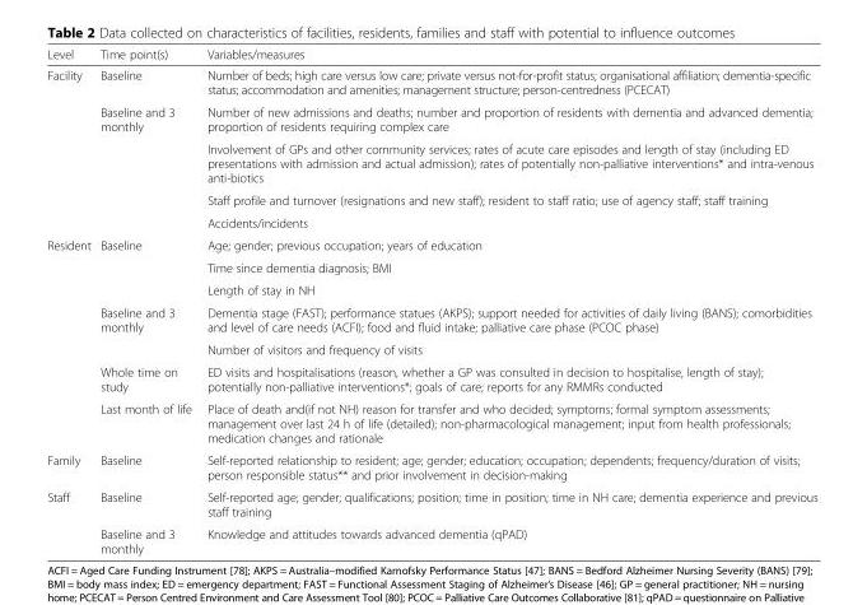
<table><thead><tr><td>Level</td><td>Time point(s)</td><td>Variables/measures</td></tr></thead><tbody><tr><td rowspan="5">Facility</td><td>Baseline</td><td>Number of beds; high care versus low care; private versus not-for-profit status; organisational affiliation; dementia-specific status; accommodation and amenities; management structure; person-centredness (PCECAT)</td></tr><tr><td rowspan="4">Baseline and 3 monthly</td><td>Number of new admissions and deaths; number and proportion of residents with dementia and advanced dementia; proportion of residents requiring complex care</td></tr><tr><td>Involvement of GPs and other community services; rates of acute care episodes and length of stay (including ED presentations with admission and actual admission); rates of potentially non-palliative interventions* and intra-venous anti-biotics</td></tr><tr><td>Staff profile and turnover (resignations and new staff); resident to staff ratio; use of agency staff; staff training</td></tr><tr><td>Accidents/incidents</td></tr><tr><td rowspan="7">Resident</td><td rowspan="3">Baseline</td><td>Age; gender; previous occupation; years of education</td></tr><tr><td>Time since dementia diagnosis; BMI</td></tr><tr><td>Length of stay in NH</td></tr><tr><td rowspan="2">Baseline and 3 monthly</td><td>Dementia stage (FAST); performance statues (AKPS); support needed for activities of daily living (BANS); comorbidities and level of care needs (ACFI); food and fluid intake; palliative care phase (PCOC phase)</td></tr><tr><td>Number of visitors and frequency of visits</td></tr><tr><td>Whole time on study</td><td>ED visits and hospitalisations (reason, whether a GP was consulted in decision to hospitalise, length of stay); potentially non-palliative interventions*; goals of care; reports for any RMMRs conducted</td></tr><tr><td>Last month of life</td><td>Place of death and(if not NH) reason for transfer and who decided; symptoms; formal symptom assessments; management over last 24 h of life (detailed); non-pharmacological management; input from health professionals; medication changes and rationale</td></tr><tr><td>Family</td><td>Baseline</td><td>Self-reported relationship to resident; age; gender; education; occupation; dependents; frequency/duration of visits; person responsible status** and prior involvement in decision-making</td></tr><tr><td rowspan="2">Staff</td><td>Baseline</td><td>Self-reported age; gender; qualifications; position; time in position; time in NH care; dementia experience and previous staff training</td></tr><tr><td>Baseline and 3 monthly</td><td>Knowledge and attitudes towards advanced dementia (qPAD)</td></tr></tbody></table>